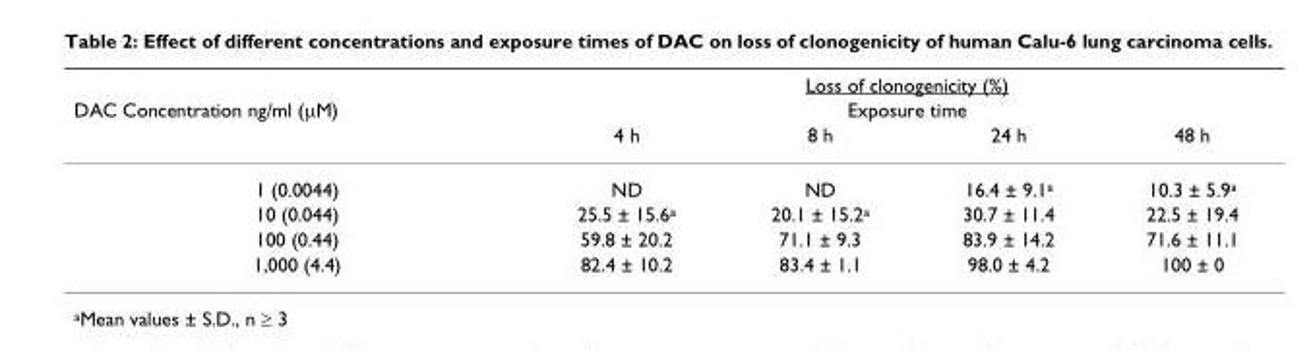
<table><thead><tr><td rowspan="3">DAC Concentration ng/ml (µM)</td><td rowspan="2" colspan="4">Loss of clonogenicity (%) Exposure time</td></tr><tr></tr><tr><td>4 h</td><td>8 h</td><td>24 h</td><td>48 h</td></tr></thead><tbody><tr><td>1 (0.0044)</td><td>ND</td><td>ND</td><td>16.4 ± 9.1<sup>a</sup></td><td>10.3 ± 5.9<sup>a</sup></td></tr><tr><td>10 (0.044)</td><td>25.5 ± 15.6<sup>a</sup></td><td>20.1 ± 15.2<sup>a</sup></td><td>30.7 ± 11.4</td><td>22.5 ± 19.4</td></tr><tr><td>100 (0.44)</td><td>59.8 ± 20.2</td><td>71.1 ± 9.3</td><td>83.9 ± 14.2</td><td>71.6 ± 11.1</td></tr><tr><td>1,000 (4.4)</td><td>82.4 ± 10.2</td><td>83.4 ± 1.1</td><td>98.0 ± 4.2</td><td>100 ± 0</td></tr></tbody></table>